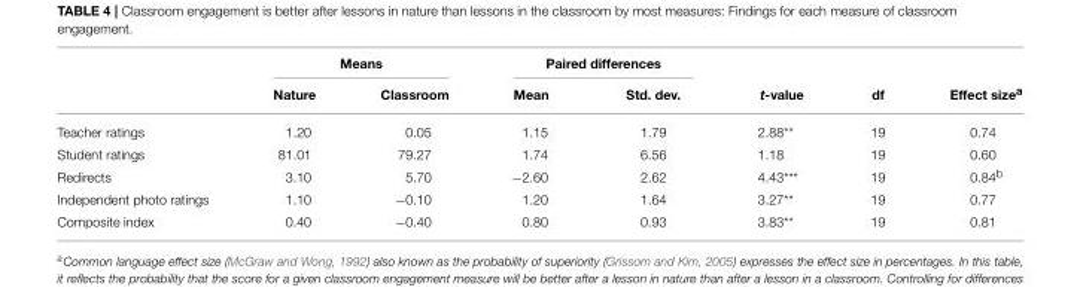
<table><thead><tr><td rowspan="2"></td><td colspan="2">Means</td><td colspan="2">Paired differences</td><td rowspan="2">t-value</td><td rowspan="2">df</td><td rowspan="2">Effect size<sup>a</sup></td></tr><tr><td>Nature</td><td>Classroom</td><td>Mean</td><td>Std. dev.</td></tr></thead><tbody><tr><td>Teacher ratings</td><td>1.20</td><td>0.05</td><td>1.15</td><td>1.79</td><td>2.88**</td><td>19</td><td>0.74</td></tr><tr><td>Student ratings</td><td>81.01</td><td>79.27</td><td>1.74</td><td>6.56</td><td>1.18</td><td>19</td><td>0.60</td></tr><tr><td>Redirects</td><td>3.10</td><td>5.70</td><td>−2.60</td><td>2.62</td><td>4.43***</td><td>19</td><td>0.84<sup>b</sup></td></tr><tr><td>Independent photo ratings</td><td>1.10</td><td>−0.10</td><td>1.20</td><td>1.64</td><td>3.27**</td><td>19</td><td>0.77</td></tr><tr><td>Composite index</td><td>0.40</td><td>−0.40</td><td>0.80</td><td>0.93</td><td>3.83**</td><td>19</td><td>0.81</td></tr></tbody></table>